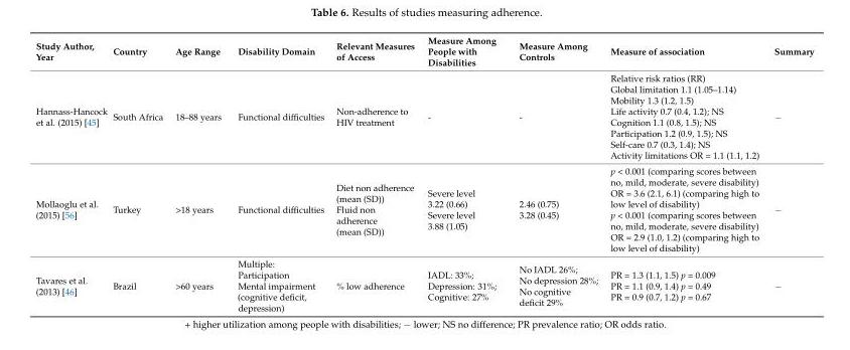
<table><thead><tr><td>Study Author, Year</td><td>Country</td><td>Age Range</td><td>Disability Domain</td><td>Relevant Measures of Access</td><td>Measure Among People with Disabilities</td><td>Measure Among Controls</td><td>Measure of association</td><td>Summary</td></tr></thead><tbody><tr><td>Hannass-Hancock et al. (2015) [45]</td><td>South Africa</td><td>18–88 years</td><td>Functional difficulties</td><td>Non-adherence to HIV treatment</td><td>-</td><td>-</td><td>Relative risk ratios (RR) Global limitation 1.1 (1.05–1.14) Mobility 1.3 (1.2, 1.5) Life activity 0.7 (0.4, 1.2); NS Cognition 1.1 (0.8, 1.5); NS Participation 1.2 (0.9, 1.5); NS Self-care 0.7 (0.3, 1.4); NS Activity limitations OR = 1.1 (1.1, 1.2)</td><td>−</td></tr><tr><td>Mollaoglu et al. (2015) [56]</td><td>Turkey</td><td>&gt;18 years</td><td>Functional difficulties</td><td>Diet non adherence (mean (SD)) Fluid non adherence (mean (SD))</td><td>Severe level 3.22 (0.66) Severe level 3.88 (1.05)</td><td>2.46 (0.75) 3.28 (0.45)</td><td>p &lt; 0.001 (comparing scores between no, mild, moderate, severe disability) OR = 3.6 (2.1, 6.1) (comparing high to low level of disability) p &lt; 0.001 (comparing scores between no, mild, moderate, severe disability) OR = 2.9 (1.0, 1.2) (comparing high to low level of disability)</td><td>−</td></tr><tr><td>Tavares et al. (2013) [46]</td><td>Brazil</td><td>&gt;60 years</td><td>Multiple: Participation Mental impairment (cognitive deficit, depression)</td><td>% low adherence</td><td>IADL: 33%; Depression: 31%; Cognitive: 27%</td><td>No IADL 26%; No depression 28%; No cognitive deficit 29%</td><td>PR = 1.3 (1.1, 1.5) p = 0.009 PR = 1.1 (0.9, 1.4) p = 0.49 PR = 0.9 (0.7, 1.2) p = 0.67</td><td>−</td></tr></tbody></table>